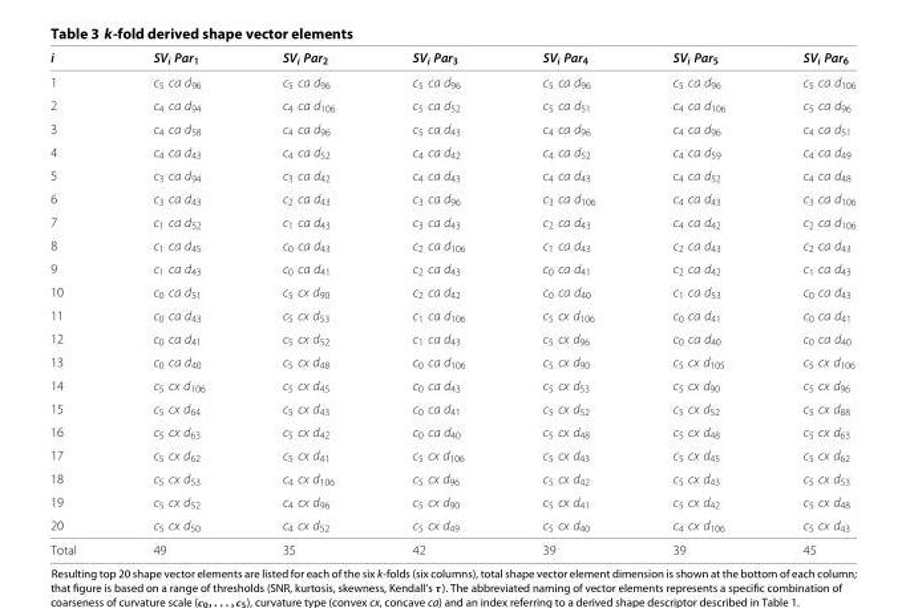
<table><thead><tr><td>i</td><td>SV<sub>i</sub> Par<sub>1</sub></td><td>SV<sub>i</sub> Par<sub>2</sub></td><td>SV<sub>i</sub> Par<sub>3</sub></td><td>SV<sub>i</sub> Par<sub>4</sub></td><td>SV<sub>i</sub> Par<sub>5</sub></td><td>SV<sub>i</sub> Par<sub>6</sub></td></tr></thead><tbody><tr><td>1</td><td>c<sub>5</sub> ca d<sub>96</sub></td><td>c<sub>5</sub> ca d<sub>96</sub></td><td>c<sub>5</sub> ca d<sub>96</sub></td><td>c<sub>5</sub> ca d<sub>96</sub></td><td>c<sub>5</sub> ca d<sub>96</sub></td><td>c<sub>5</sub> ca d<sub>106</sub></td></tr><tr><td>2</td><td>c<sub>4</sub> ca d<sub>94</sub></td><td>c<sub>4</sub> ca d<sub>106</sub></td><td>c<sub>5</sub> ca d<sub>52</sub></td><td>c<sub>5</sub> ca d<sub>51</sub></td><td>c<sub>4</sub> ca d<sub>106</sub></td><td>c<sub>5</sub> ca d<sub>96</sub></td></tr><tr><td>3</td><td>c<sub>4</sub> ca d<sub>58</sub></td><td>c<sub>4</sub> ca d<sub>96</sub></td><td>c<sub>5</sub> ca d<sub>43</sub></td><td>c<sub>4</sub> ca d<sub>96</sub></td><td>c<sub>4</sub> ca d<sub>96</sub></td><td>c<sub>4</sub> ca d<sub>51</sub></td></tr><tr><td>4</td><td>c<sub>4</sub> ca d<sub>43</sub></td><td>c<sub>4</sub> ca d<sub>52</sub></td><td>c<sub>4</sub> ca d<sub>42</sub></td><td>c<sub>4</sub> ca d<sub>52</sub></td><td>c<sub>4</sub> ca d<sub>59</sub></td><td>c<sub>4</sub> ca d<sub>49</sub></td></tr><tr><td>5</td><td>c<sub>3</sub> ca d<sub>94</sub></td><td>c<sub>3</sub> ca d<sub>42</sub></td><td>c<sub>4</sub> ca d<sub>43</sub></td><td>c<sub>4</sub> ca d<sub>43</sub></td><td>c<sub>4</sub> ca d<sub>52</sub></td><td>c<sub>4</sub> ca d<sub>48</sub></td></tr><tr><td>6</td><td>c<sub>3</sub> ca d<sub>43</sub></td><td>c<sub>2</sub> ca d<sub>43</sub></td><td>c<sub>3</sub> ca d<sub>96</sub></td><td>c<sub>3</sub> ca d<sub>106</sub></td><td>c<sub>4</sub> ca d<sub>43</sub></td><td>c<sub>3</sub> ca d<sub>106</sub></td></tr><tr><td>7</td><td>c<sub>1</sub> ca d<sub>52</sub></td><td>c<sub>1</sub> ca d<sub>43</sub></td><td>c<sub>3</sub> ca d<sub>43</sub></td><td>c<sub>2</sub> ca d<sub>43</sub></td><td>c<sub>4</sub> ca d<sub>42</sub></td><td>c<sub>2</sub> ca d<sub>106</sub></td></tr><tr><td>8</td><td>c<sub>1</sub> ca d<sub>45</sub></td><td>c<sub>0</sub> ca d<sub>43</sub></td><td>c<sub>2</sub> ca d<sub>106</sub></td><td>c<sub>1</sub> ca d<sub>43</sub></td><td>c<sub>2</sub> ca d<sub>43</sub></td><td>c<sub>2</sub> ca d<sub>43</sub></td></tr><tr><td>9</td><td>c<sub>1</sub> ca d<sub>43</sub></td><td>c<sub>0</sub> ca d<sub>41</sub></td><td>c<sub>2</sub> ca d<sub>43</sub></td><td>c<sub>0</sub> ca d<sub>41</sub></td><td>c<sub>2</sub> ca d<sub>42</sub></td><td>c<sub>1</sub> ca d<sub>43</sub></td></tr><tr><td>10</td><td>c<sub>0</sub> ca d<sub>51</sub></td><td>c<sub>5</sub> cx d<sub>90</sub></td><td>c<sub>2</sub> ca d<sub>42</sub></td><td>c<sub>0</sub> ca d<sub>40</sub></td><td>c<sub>1</sub> ca d<sub>53</sub></td><td>c<sub>0</sub> ca d<sub>43</sub></td></tr><tr><td>11</td><td>c<sub>0</sub> ca d<sub>43</sub></td><td>c<sub>5</sub> cx d<sub>53</sub></td><td>c<sub>1</sub> ca d<sub>106</sub></td><td>c<sub>5</sub> cx d<sub>106</sub></td><td>c<sub>0</sub> ca d<sub>41</sub></td><td>c<sub>0</sub> ca d<sub>41</sub></td></tr><tr><td>12</td><td>c<sub>0</sub> ca d<sub>41</sub></td><td>c<sub>5</sub> cx d<sub>52</sub></td><td>c<sub>1</sub> ca d<sub>43</sub></td><td>c<sub>5</sub> cx d<sub>96</sub></td><td>c<sub>0</sub> ca d<sub>40</sub></td><td>c<sub>0</sub> ca d<sub>40</sub></td></tr><tr><td>13</td><td>c<sub>0</sub> ca d<sub>40</sub></td><td>c<sub>5</sub> cx d<sub>48</sub></td><td>c<sub>0</sub> ca d<sub>106</sub></td><td>c<sub>5</sub> cx d<sub>90</sub></td><td>c<sub>5</sub> cx d<sub>105</sub></td><td>c<sub>5</sub> cx d<sub>106</sub></td></tr><tr><td>14</td><td>c<sub>5</sub> cx d<sub>106</sub></td><td>c<sub>5</sub> cx d<sub>45</sub></td><td>c<sub>0</sub> ca d<sub>43</sub></td><td>c<sub>5</sub> cx d<sub>53</sub></td><td>c<sub>5</sub> cx d<sub>90</sub></td><td>c<sub>5</sub> cx d<sub>96</sub></td></tr><tr><td>15</td><td>c<sub>5</sub> cx d<sub>64</sub></td><td>c<sub>5</sub> cx d<sub>43</sub></td><td>c<sub>0</sub> ca d<sub>41</sub></td><td>c<sub>5</sub> cx d<sub>52</sub></td><td>c<sub>5</sub> cx d<sub>52</sub></td><td>c<sub>5</sub> cx d<sub>88</sub></td></tr><tr><td>16</td><td>c<sub>5</sub> cx d<sub>63</sub></td><td>c<sub>5</sub> cx d<sub>42</sub></td><td>c<sub>0</sub> ca d<sub>40</sub></td><td>c<sub>5</sub> cx d<sub>48</sub></td><td>c<sub>5</sub> cx d<sub>48</sub></td><td>c<sub>5</sub> cx d<sub>63</sub></td></tr><tr><td>17</td><td>c<sub>5</sub> cx d<sub>62</sub></td><td>c<sub>5</sub> cx d<sub>41</sub></td><td>c<sub>5</sub> cx d<sub>106</sub></td><td>c<sub>5</sub> cx d<sub>43</sub></td><td>c<sub>5</sub> cx d<sub>45</sub></td><td>c<sub>5</sub> cx d<sub>62</sub></td></tr><tr><td>18</td><td>c<sub>5</sub> cx d<sub>53</sub></td><td>c<sub>4</sub> cx d<sub>106</sub></td><td>c<sub>5</sub> cx d<sub>96</sub></td><td>c<sub>5</sub> cx d<sub>42</sub></td><td>c<sub>5</sub> cx d<sub>43</sub></td><td>c<sub>5</sub> cx d<sub>53</sub></td></tr><tr><td>19</td><td>c<sub>5</sub> cx d<sub>52</sub></td><td>c<sub>4</sub> cx d<sub>96</sub></td><td>c<sub>5</sub> cx d<sub>90</sub></td><td>c<sub>5</sub> cx d<sub>41</sub></td><td>c<sub>5</sub> cx d<sub>42</sub></td><td>c<sub>5</sub> cx d<sub>48</sub></td></tr><tr><td>20</td><td>c<sub>5</sub> cx d<sub>50</sub></td><td>c<sub>4</sub> cx d<sub>52</sub></td><td>c<sub>5</sub> cx d<sub>49</sub></td><td>c<sub>5</sub> cx d<sub>40</sub></td><td>c<sub>4</sub> cx d<sub>106</sub></td><td>c<sub>5</sub> cx d<sub>43</sub></td></tr><tr><td>Total</td><td>49</td><td>35</td><td>42</td><td>39</td><td>39</td><td>45</td></tr></tbody></table>